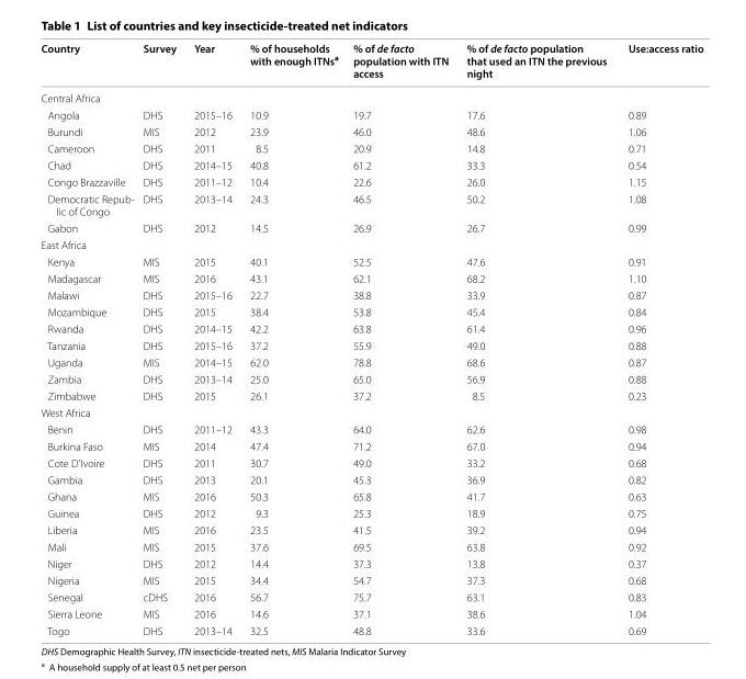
<table><thead><tr><td>Country</td><td>Survey</td><td>Year</td><td>% of households with enough ITNs<sup>a</sup></td><td>% of de facto population with ITN access</td><td>% of de facto population that used an ITN the previous night</td><td>Use:access ratio</td></tr></thead><tbody><tr><td colspan="7">Central Africa</td></tr><tr><td>Angola</td><td>DHS</td><td>2015–16</td><td>10.9</td><td>19.7</td><td>17.6</td><td>0.89</td></tr><tr><td>Burundi</td><td>MIS</td><td>2012</td><td>23.9</td><td>46.0</td><td>48.6</td><td>1.06</td></tr><tr><td>Cameroon</td><td>DHS</td><td>2011</td><td>8.5</td><td>20.9</td><td>14.8</td><td>0.71</td></tr><tr><td>Chad</td><td>DHS</td><td>2014–15</td><td>40.8</td><td>61.2</td><td>33.3</td><td>0.54</td></tr><tr><td>Congo Brazzaville</td><td>DHS</td><td>2011–12</td><td>10.4</td><td>22.6</td><td>26.0</td><td>1.15</td></tr><tr><td>Democratic Repub- lic of Congo</td><td>DHS</td><td>2013–14</td><td>24.3</td><td>46.5</td><td>50.2</td><td>1.08</td></tr><tr><td>Gabon</td><td>DHS</td><td>2012</td><td>14.5</td><td>26.9</td><td>26.7</td><td>0.99</td></tr><tr><td colspan="7">East Africa</td></tr><tr><td>Kenya</td><td>MIS</td><td>2015</td><td>40.1</td><td>52.5</td><td>47.6</td><td>0.91</td></tr><tr><td>Madagascar</td><td>MIS</td><td>2016</td><td>43.1</td><td>62.1</td><td>68.2</td><td>1.10</td></tr><tr><td>Malawi</td><td>DHS</td><td>2015–16</td><td>22.7</td><td>38.8</td><td>33.9</td><td>0.87</td></tr><tr><td>Mozambique</td><td>DHS</td><td>2015</td><td>38.4</td><td>53.8</td><td>45.4</td><td>0.84</td></tr><tr><td>Rwanda</td><td>DHS</td><td>2014–15</td><td>42.2</td><td>63.8</td><td>61.4</td><td>0.96</td></tr><tr><td>Tanzania</td><td>DHS</td><td>2015–16</td><td>37.2</td><td>55.9</td><td>49.0</td><td>0.88</td></tr><tr><td>Uganda</td><td>MIS</td><td>2014–15</td><td>62.0</td><td>78.8</td><td>68.6</td><td>0.87</td></tr><tr><td>Zambia</td><td>DHS</td><td>2013–14</td><td>25.0</td><td>65.0</td><td>56.9</td><td>0.88</td></tr><tr><td>Zimbabwe</td><td>DHS</td><td>2015</td><td>26.1</td><td>37.2</td><td>8.5</td><td>0.23</td></tr><tr><td colspan="7">West Africa</td></tr><tr><td>Benin</td><td>DHS</td><td>2011–12</td><td>43.3</td><td>64.0</td><td>62.6</td><td>0.98</td></tr><tr><td>Burkina Faso</td><td>MIS</td><td>2014</td><td>47.4</td><td>71.2</td><td>67.0</td><td>0.94</td></tr><tr><td>Cote D’Ivoire</td><td>DHS</td><td>2011</td><td>30.7</td><td>49.0</td><td>33.2</td><td>0.68</td></tr><tr><td>Gambia</td><td>DHS</td><td>2013</td><td>20.1</td><td>45.3</td><td>36.9</td><td>0.82</td></tr><tr><td>Ghana</td><td>MIS</td><td>2016</td><td>50.3</td><td>65.8</td><td>41.7</td><td>0.63</td></tr><tr><td>Guinea</td><td>DHS</td><td>2012</td><td>9.3</td><td>25.3</td><td>18.9</td><td>0.75</td></tr><tr><td>Liberia</td><td>MIS</td><td>2016</td><td>23.5</td><td>41.5</td><td>39.2</td><td>0.94</td></tr><tr><td>Mali</td><td>MIS</td><td>2015</td><td>37.6</td><td>69.5</td><td>63.8</td><td>0.92</td></tr><tr><td>Niger</td><td>DHS</td><td>2012</td><td>14.4</td><td>37.3</td><td>13.8</td><td>0.37</td></tr><tr><td>Nigeria</td><td>MIS</td><td>2015</td><td>34.4</td><td>54.7</td><td>37.3</td><td>0.68</td></tr><tr><td>Senegal</td><td>cDHS</td><td>2016</td><td>56.7</td><td>75.7</td><td>63.1</td><td>0.83</td></tr><tr><td>Sierra Leone</td><td>MIS</td><td>2016</td><td>14.6</td><td>37.1</td><td>38.6</td><td>1.04</td></tr><tr><td>Togo</td><td>DHS</td><td>2013–14</td><td>32.5</td><td>48.8</td><td>33.6</td><td>0.69</td></tr></tbody></table>